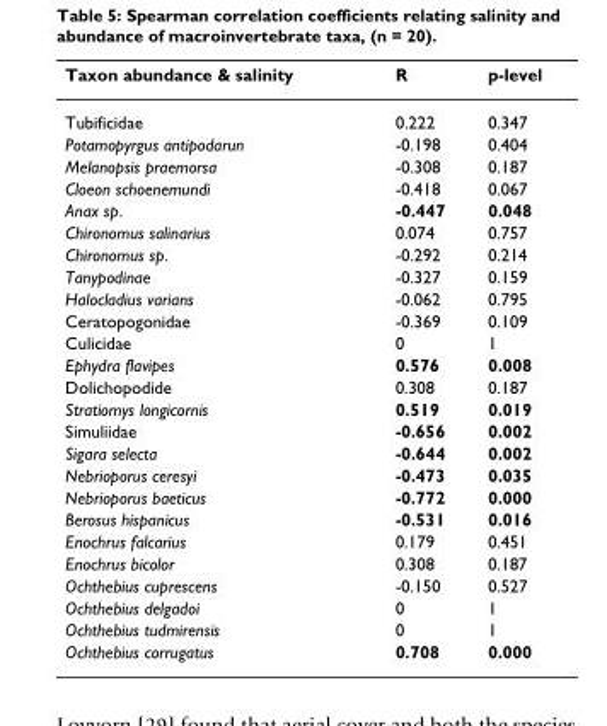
<table><thead><tr><td>Taxon abundance &amp; salinity</td><td>R</td><td>p-level</td></tr></thead><tbody><tr><td>Tubificidae</td><td>0.222</td><td>0.347</td></tr><tr><td>Potamopyrgus antipodarun</td><td>-0.198</td><td>0.404</td></tr><tr><td>Melanopsis praemorsa</td><td>-0.308</td><td>0.187</td></tr><tr><td>Cloeon schoenemundi</td><td>-0.418</td><td>0.067</td></tr><tr><td>Anax sp.</td><td>-0.447</td><td>0.048</td></tr><tr><td>Chironomus salinarius</td><td>0.074</td><td>0.757</td></tr><tr><td>Chironomus sp.</td><td>-0.292</td><td>0.214</td></tr><tr><td>Tanypodinae</td><td>-0.327</td><td>0.159</td></tr><tr><td>Halocladius varians</td><td>-0.062</td><td>0.795</td></tr><tr><td>Ceratopogonidae</td><td>-0.369</td><td>0.109</td></tr><tr><td>Culicidae</td><td>0</td><td>1</td></tr><tr><td>Ephydra flavipes</td><td>0.576</td><td>0.008</td></tr><tr><td>Dolichopodide</td><td>0.308</td><td>0.187</td></tr><tr><td>Stratiomys longicornis</td><td>0.519</td><td>0.019</td></tr><tr><td>Simuliidae</td><td>-0.656</td><td>0.002</td></tr><tr><td>Sigara selecta</td><td>-0.644</td><td>0.002</td></tr><tr><td>Nebrioporus ceresyi</td><td>-0.473</td><td>0.035</td></tr><tr><td>Nebrioporus baeticus</td><td>-0.772</td><td>0.000</td></tr><tr><td>Berosus hispanicus</td><td>-0.531</td><td>0.016</td></tr><tr><td>Enochrus falcarius</td><td>0.179</td><td>0.451</td></tr><tr><td>Enochrus bicolor</td><td>0.308</td><td>0.187</td></tr><tr><td>Ochthebius cuprescens</td><td>-0.150</td><td>0.527</td></tr><tr><td>Ochthebius delgadoi</td><td>0</td><td>1</td></tr><tr><td>Ochthebius tudmirensis</td><td>0</td><td>1</td></tr><tr><td>Ochthebius corrugatus</td><td>0.708</td><td>0.000</td></tr></tbody></table>